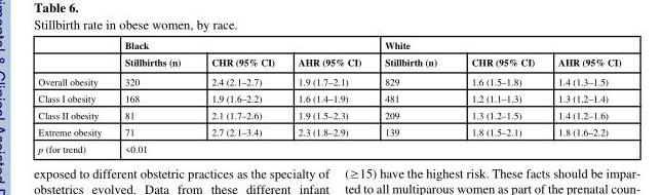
<table><thead><tr><td rowspan="2"></td><td colspan="3">Black</td><td colspan="3">White</td></tr><tr><td>Stillbirths (n)</td><td>CHR (95% CI)</td><td>AHR (95% CI)</td><td>Stillbirth (n)</td><td>CHR (95% CI)</td><td>AHR (95% CI)</td></tr></thead><tbody><tr><td>Overall obesity</td><td>320</td><td>2.4 (2.1–2.7)</td><td>1.9 (1.7–2.1)</td><td>829</td><td>1.6 (1.5–1.8)</td><td>1.4 (1.3–1.5)</td></tr><tr><td>Class I obesity</td><td>168</td><td>1.9 (1.6–2.2)</td><td>1.6 (1.4–1.9)</td><td>481</td><td>1.2 (1.1–1.3)</td><td>1.3 (1.2–1.4)</td></tr><tr><td>Class II obesity</td><td>81</td><td>2.1 (1.7–2.6)</td><td>1.9 (1.5–2.3)</td><td>209</td><td>1.3 (1.2–1.5)</td><td>1.4 (1.2–1.6)</td></tr><tr><td>Extreme obesity</td><td>71</td><td>2.7 (2.1–3.4)</td><td>2.3 (1.8–2.9)</td><td>139</td><td>1.8 (1.5–2.1)</td><td>1.8 (1.6–2.2)</td></tr><tr><td>p (for trend)</td><td colspan="6">&lt;0.01</td></tr></tbody></table>